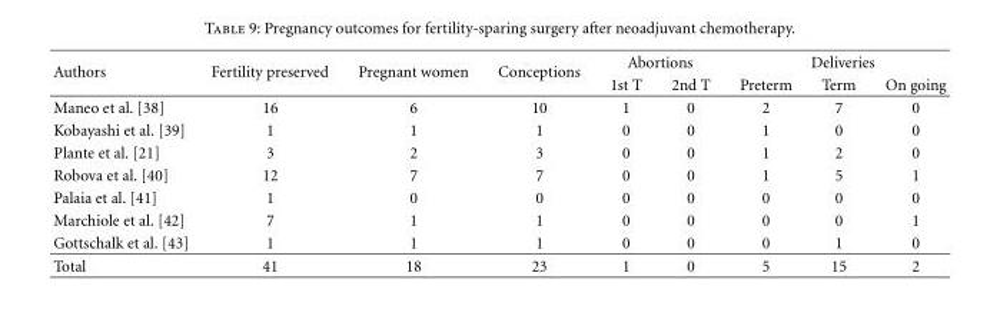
<table><thead><tr><td rowspan="2">Authors</td><td rowspan="2">Fertility preserved</td><td rowspan="2">Pregnant women</td><td rowspan="2">Conceptions</td><td colspan="2">Abortions</td><td colspan="3">Deliveries</td></tr><tr><td>1st T</td><td>2nd T</td><td>Preterm</td><td>Term</td><td>On going</td></tr></thead><tbody><tr><td>Maneo et al. [38]</td><td>16</td><td>6</td><td>10</td><td>1</td><td>0</td><td>2</td><td>7</td><td>0</td></tr><tr><td>Kobayashi et al. [39]</td><td>1</td><td>1</td><td>1</td><td>0</td><td>0</td><td>1</td><td>0</td><td>0</td></tr><tr><td>Plante et al. [21]</td><td>3</td><td>2</td><td>3</td><td>0</td><td>0</td><td>1</td><td>2</td><td>0</td></tr><tr><td>Robova et al. [40]</td><td>12</td><td>7</td><td>7</td><td>0</td><td>0</td><td>1</td><td>5</td><td>1</td></tr><tr><td>Palaia et al. [41]</td><td>1</td><td>0</td><td>0</td><td>0</td><td>0</td><td>0</td><td>0</td><td>0</td></tr><tr><td>Marchiole et al. [42]</td><td>7</td><td>1</td><td>1</td><td>0</td><td>0</td><td>0</td><td>0</td><td>1</td></tr><tr><td>Gottschalk et al. [43]</td><td>1</td><td>1</td><td>1</td><td>0</td><td>0</td><td>0</td><td>1</td><td>0</td></tr><tr><td>Total</td><td>41</td><td>18</td><td>23</td><td>1</td><td>0</td><td>5</td><td>15</td><td>2</td></tr></tbody></table>